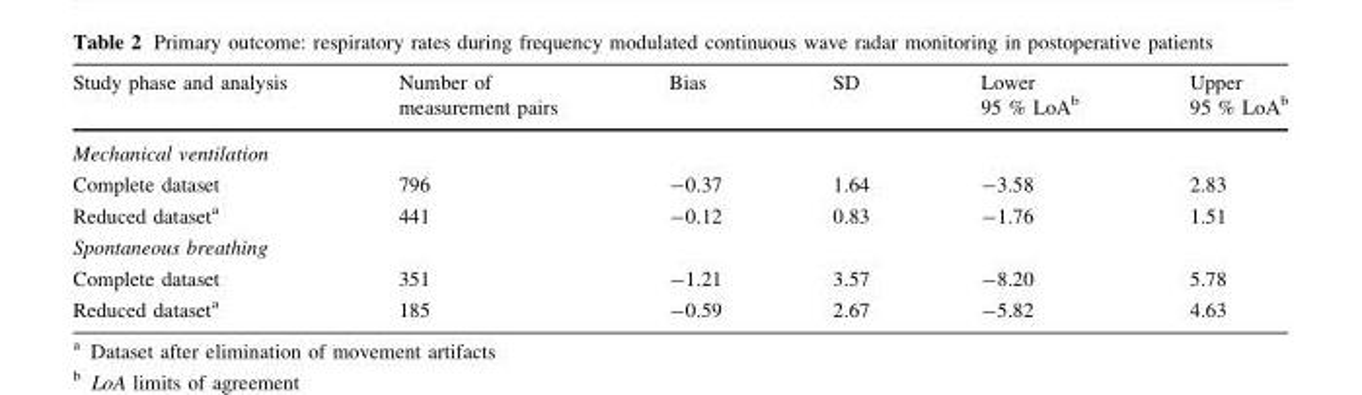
<table><thead><tr><td>Study phase and analysis</td><td>Number of measurement pairs</td><td>Bias</td><td>SD</td><td>Lower 95 % LoA<sup>b</sup></td><td>Upper 95 % LoA<sup>b</sup></td></tr></thead><tbody><tr><td colspan="6">Mechanical ventilation</td></tr><tr><td>Complete dataset</td><td>796</td><td>-0.37</td><td>1.64</td><td>-3.58</td><td>2.83</td></tr><tr><td>Reduced dataset<sup>a</sup></td><td>441</td><td>-0.12</td><td>0.83</td><td>-1.76</td><td>1.51</td></tr><tr><td colspan="6">Spontaneous breathing</td></tr><tr><td>Complete dataset</td><td>351</td><td>-1.21</td><td>3.57</td><td>-8.20</td><td>5.78</td></tr><tr><td>Reduced dataset<sup>a</sup></td><td>185</td><td>-0.59</td><td>2.67</td><td>-5.82</td><td>4.63</td></tr></tbody></table>